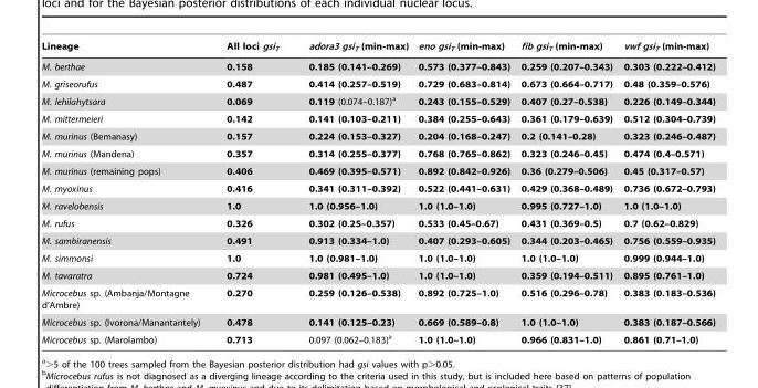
<table><thead><tr><td>Lineage</td><td>All loci gsi<sub>T</sub></td><td>adora3 gsi<sub>T</sub> (min-max)</td><td>eno gsi<sub>T</sub> (min-max)</td><td>fib gsi<sub>T</sub> (min-max)</td><td>vwf gsi<sub>T</sub> (min-max)</td></tr></thead><tbody><tr><td>M. berthae</td><td>0.158</td><td>0.185 (0.141–0.269)</td><td>0.573 (0.377–0.843)</td><td>0.259 (0.207–0.343)</td><td>0.303 (0.222–0.412)</td></tr><tr><td>M. griseorufus</td><td>0.487</td><td>0.414 (0.257–0.519)</td><td>0.729 (0.683–0.814)</td><td>0.673 (0.664–0.717)</td><td>0.48 (0.359–0.576)</td></tr><tr><td>M. lehilahytsara</td><td>0.069</td><td>0.119 (0.074–0.187)<sup>a</sup></td><td>0.243 (0.155–0.529)</td><td>0.407 (0.27–0.538)</td><td>0.226 (0.149–0.344)</td></tr><tr><td>M. mittermeieri</td><td>0.142</td><td>0.141 (0.103–0.211)</td><td>0.384 (0.255–0.643)</td><td>0.361 (0.179–0.639)</td><td>0.512 (0.304–0.739)</td></tr><tr><td>M. murinus (Bemanasy)</td><td>0.157</td><td>0.224 (0.153–0.327)</td><td>0.204 (0.168–0.247)</td><td>0.2 (0.141–0.28)</td><td>0.323 (0.246–0.487)</td></tr><tr><td>M. murinus (Mandena)</td><td>0.357</td><td>0.314 (0.255–0.377)</td><td>0.768 (0.765–0.862)</td><td>0.323 (0.246–0.45)</td><td>0.474 (0.4–0.571)</td></tr><tr><td>M. murinus (remaining pops)</td><td>0.406</td><td>0.469 (0.395–0.571)</td><td>0.892 (0.842–0.926)</td><td>0.36 (0.279–0.506)</td><td>0.45 (0.317–0.57)</td></tr><tr><td>M. myoxinus</td><td>0.416</td><td>0.341 (0.311–0.392)</td><td>0.522 (0.441–0.631)</td><td>0.429 (0.368–0.489)</td><td>0.736 (0.672–0.793)</td></tr><tr><td>M. ravelobensis</td><td>1.0</td><td>1.0 (0.956–1.0)</td><td>1.0 (1.0–1.0)</td><td>0.995 (0.727–1.0)</td><td>1.0 (1.0–1.0)</td></tr><tr><td>M. rufus</td><td>0.326</td><td>0.302 (0.25–0.357)</td><td>0.533 (0.45–0.67)</td><td>0.431 (0.369–0.5)</td><td>0.7 (0.62–0.829)</td></tr><tr><td>M. sambiranensis</td><td>0.491</td><td>0.913 (0.334–1.0)</td><td>0.407 (0.293–0.605)</td><td>0.344 (0.203–0.465)</td><td>0.756 (0.559–0.935)</td></tr><tr><td>M. simmonsi</td><td>1.0</td><td>1.0 (0.981–1.0)</td><td>1.0 (1.0–1.0)</td><td>1.0 (1.0–1.0)</td><td>0.999 (0.944–1.0)</td></tr><tr><td>M. tavaratra</td><td>0.724</td><td>0.981 (0.495–1.0)</td><td>1.0 (1.0–1.0)</td><td>0.359 (0.194–0.511)</td><td>0.895 (0.761–1.0)</td></tr><tr><td>Microcebus sp. (Ambanja/Montagne d’Ambre)</td><td>0.270</td><td>0.259 (0.126–0.538)</td><td>0.892 (0.725–1.0)</td><td>0.516 (0.296–0.78)</td><td>0.383 (0.183–0.536)</td></tr><tr><td>Microcebus sp. (Ivorona/Manantantely)</td><td>0.478</td><td>0.141 (0.125–0.23)</td><td>0.669 (0.589–0.8)</td><td>1.0 (1.0–1.0)</td><td>0.383 (0.187–0.566)</td></tr><tr><td>Microcebus sp. (Marolambo)</td><td>0.713</td><td>0.097 (0.062–0.183)<sup>a</sup></td><td>1.0 (1.0–1.0)</td><td>0.966 (0.831–1.0)</td><td>0.861 (0.71–1.0)</td></tr></tbody></table>